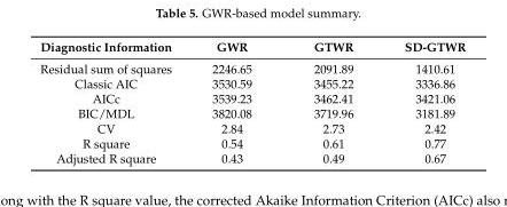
<table><thead><tr><td>Diagnostic Information</td><td>GWR</td><td>GTWR</td><td>SD-GTWR</td></tr></thead><tbody><tr><td>Residual sum of squares</td><td>2246.65</td><td>2091.89</td><td>1410.61</td></tr><tr><td>Classic AIC</td><td>3530.59</td><td>3455.22</td><td>3336.86</td></tr><tr><td>AICc</td><td>3539.23</td><td>3462.41</td><td>3421.06</td></tr><tr><td>BIC/MDL</td><td>3820.08</td><td>3719.96</td><td>3181.89</td></tr><tr><td>CV</td><td>2.84</td><td>2.73</td><td>2.42</td></tr><tr><td>R square</td><td>0.54</td><td>0.61</td><td>0.77</td></tr><tr><td>Adjusted R square</td><td>0.43</td><td>0.49</td><td>0.67</td></tr></tbody></table>